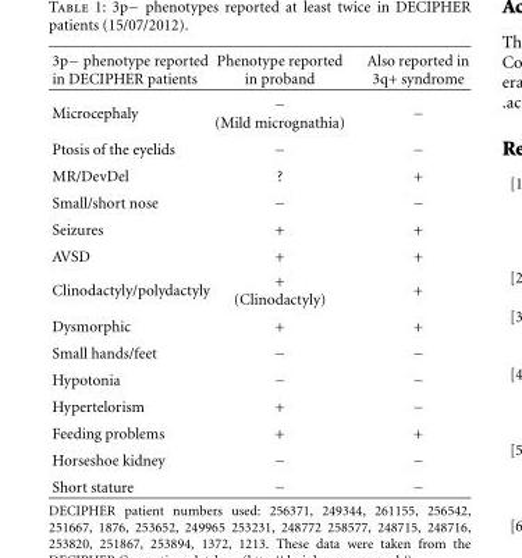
<table><thead><tr><td>3p− phenotype reported in DECIPHER patients</td><td>Phenotype reported in proband</td><td>Also reported in 3q+ syndrome</td></tr></thead><tbody><tr><td>Microcephaly</td><td>− (Mild micrognathia)</td><td>−</td></tr><tr><td>Ptosis of the eyelids</td><td>−</td><td>−</td></tr><tr><td>MR/DevDel</td><td>?</td><td>+</td></tr><tr><td>Small/short nose</td><td>−</td><td>−</td></tr><tr><td>Seizures</td><td>+</td><td>+</td></tr><tr><td>AVSD</td><td>+</td><td>+</td></tr><tr><td>Clinodactyly/polydactyly</td><td>+ (Clinodactyly)</td><td>+</td></tr><tr><td>Dysmorphic</td><td>+</td><td>+</td></tr><tr><td>Small hands/feet</td><td>−</td><td>−</td></tr><tr><td>Hypotonia</td><td>−</td><td>−</td></tr><tr><td>Hypertelorism</td><td>+</td><td>−</td></tr><tr><td>Feeding problems</td><td>+</td><td>+</td></tr><tr><td>Horseshoe kidney</td><td>−</td><td>−</td></tr><tr><td>Short stature</td><td>−</td><td>−</td></tr></tbody></table>